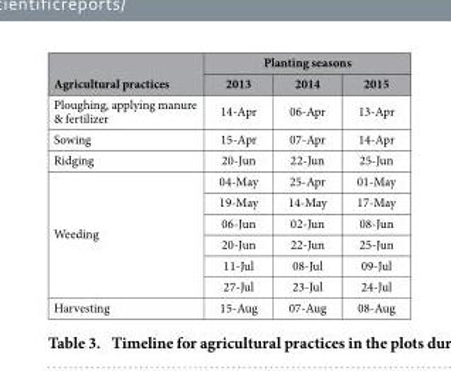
<table><thead><tr><td rowspan="2">Agricultural practices</td><td colspan="3">Planting seasons</td></tr><tr><td>2013</td><td>2014</td><td>2015</td></tr></thead><tbody><tr><td>Ploughing, applying manure &amp; fertilizer</td><td>14-Apr</td><td>06-Apr</td><td>13-Apr</td></tr><tr><td>Sowing</td><td>15-Apr</td><td>07-Apr</td><td>14-Apr</td></tr><tr><td>Ridging</td><td>20-Jun</td><td>22-Jun</td><td>25-Jun</td></tr><tr><td rowspan="6">Weeding</td><td>04-May</td><td>25-Apr</td><td>01-May</td></tr><tr><td>19-May</td><td>14-May</td><td>17-May</td></tr><tr><td>06-Jun</td><td>02-Jun</td><td>08-Jun</td></tr><tr><td>20-Jun</td><td>22-Jun</td><td>25-Jun</td></tr><tr><td>11-Jul</td><td>08-Jul</td><td>09-Jul</td></tr><tr><td>27-Jul</td><td>23-Jul</td><td>24-Jul</td></tr><tr><td>Harvesting</td><td>15-Aug</td><td>07-Aug</td><td>08-Aug</td></tr></tbody></table>